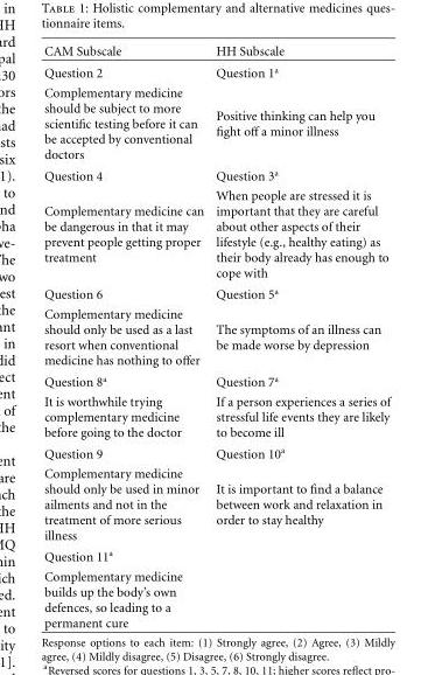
<table><thead><tr><td>CAM Subscale</td><td>HH Subscale</td></tr></thead><tbody><tr><td>Question 2</td><td>Question 1<sup>a</sup></td></tr><tr><td>Complementary medicine should be subject to more scientific testing before it can be accepted by conventional doctors</td><td>Positive thinking can help you fight off a minor illness</td></tr><tr><td>Question 4</td><td>Question 3<sup>a</sup></td></tr><tr><td>Complementary medicine can be dangerous in that it may prevent people getting proper treatment</td><td>When people are stressed it is important that they are careful about other aspects of their lifestyle (e.g., healthy eating) as their body already has enough to cope with</td></tr><tr><td>Question 6</td><td>Question 5<sup>a</sup></td></tr><tr><td>Complementary medicine should only be used as a last resort when conventional medicine has nothing to offer</td><td>The symptoms of an illness can be made worse by depression</td></tr><tr><td>Question 8<sup>a</sup></td><td>Question 7<sup>a</sup></td></tr><tr><td>It is worthwhile trying complementary medicine before going to the doctor</td><td>If a person experiences a series of stressful life events they are likely to become ill</td></tr><tr><td>Question 9</td><td>Question 10<sup>a</sup></td></tr><tr><td>Complementary medicine should only be used in minor ailments and not in the treatment of more serious illness</td><td>It is important to find a balance between work and relaxation in order to stay healthy</td></tr><tr><td colspan="2">Question 11<sup>a</sup></td></tr><tr><td>Complementary medicine builds up the body’s own defences, so leading to a permanent cure</td><td></td></tr></tbody></table>